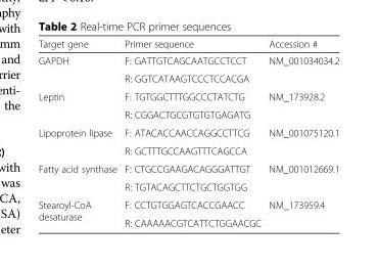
<table><thead><tr><td>Target gene</td><td>Primer sequence</td><td>Accession #</td></tr></thead><tbody><tr><td rowspan="2">GAPDH</td><td>F: GATTGTCAGCAATGCCTCCT</td><td rowspan="2">NM_001034034.2</td></tr><tr><td>R: GGTCATAAGTCCCTCCACGA</td></tr><tr><td rowspan="2">Leptin</td><td>F: TGTGGCTTTGGCCCTATCTG</td><td rowspan="2">NM_173928.2</td></tr><tr><td>R: CGGACTGCGTGTGTGAGATG</td></tr><tr><td rowspan="2">Lipoprotein lipase</td><td>F: ATACACCAACCAGGCCTTCG</td><td rowspan="2">NM_001075120.1</td></tr><tr><td>R: GCTTTGCCAAGTTTCAGCCA</td></tr><tr><td rowspan="2">Fatty acid synthase</td><td>F: CTGCCGAAGACAGGGATTGT</td><td rowspan="2">NM_001012669.1</td></tr><tr><td>R: TGTACAGCTTCTGCTGGTGG</td></tr><tr><td rowspan="2">Stearoyl-CoA desaturase</td><td>F: CCTGTGGAGTCACCGAACC</td><td rowspan="2">NM_173959.4</td></tr><tr><td>R: CAAAAACGTCATTCTGGAACGC</td></tr></tbody></table>